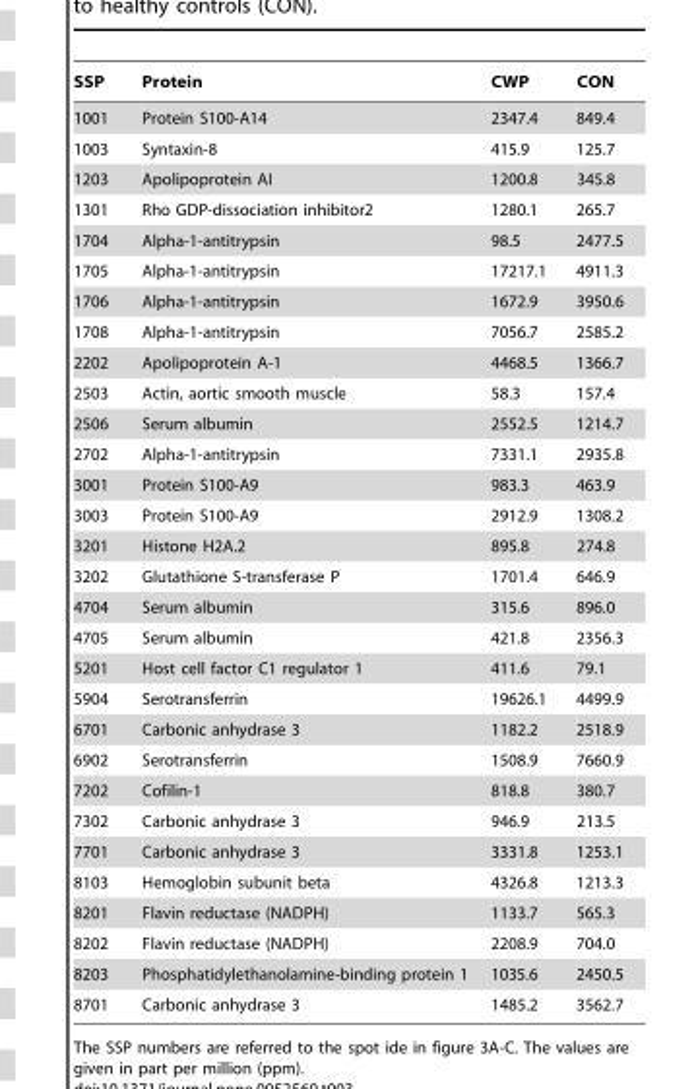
<table><thead><tr><td>SSP</td><td>Protein</td><td>CWP</td><td>CON</td></tr></thead><tbody><tr><td>1001</td><td>Protein S100-A14</td><td>2347.4</td><td>849.4</td></tr><tr><td>1003</td><td>Syntaxin-8</td><td>415.9</td><td>125.7</td></tr><tr><td>1203</td><td>Apolipoprotein AI</td><td>1200.8</td><td>345.8</td></tr><tr><td>1301</td><td>Rho GDP-dissociation inhibitor2</td><td>1280.1</td><td>265.7</td></tr><tr><td>1704</td><td>Alpha-1-antitrypsin</td><td>98.5</td><td>2477.5</td></tr><tr><td>1705</td><td>Alpha-1-antitrypsin</td><td>17217.1</td><td>4911.3</td></tr><tr><td>1706</td><td>Alpha-1-antitrypsin</td><td>1672.9</td><td>3950.6</td></tr><tr><td>1708</td><td>Alpha-1-antitrypsin</td><td>7056.7</td><td>2585.2</td></tr><tr><td>2202</td><td>Apolipoprotein A-1</td><td>4468.5</td><td>1366.7</td></tr><tr><td>2503</td><td>Actin, aortic smooth muscle</td><td>58.3</td><td>157.4</td></tr><tr><td>2506</td><td>Serum albumin</td><td>2552.5</td><td>1214.7</td></tr><tr><td>2702</td><td>Alpha-1-antitrypsin</td><td>7331.1</td><td>2935.8</td></tr><tr><td>3001</td><td>Protein S100-A9</td><td>983.3</td><td>463.9</td></tr><tr><td>3003</td><td>Protein S100-A9</td><td>2912.9</td><td>1308.2</td></tr><tr><td>3201</td><td>Histone H2A.2</td><td>895.8</td><td>274.8</td></tr><tr><td>3202</td><td>Glutathione S-transferase P</td><td>1701.4</td><td>646.9</td></tr><tr><td>4704</td><td>Serum albumin</td><td>315.6</td><td>896.0</td></tr><tr><td>4705</td><td>Serum albumin</td><td>421.8</td><td>2356.3</td></tr><tr><td>5201</td><td>Host cell factor C1 regulator 1</td><td>411.6</td><td>79.1</td></tr><tr><td>5904</td><td>Serotransferrin</td><td>19626.1</td><td>4499.9</td></tr><tr><td>6701</td><td>Carbonic anhydrase 3</td><td>1182.2</td><td>2518.9</td></tr><tr><td>6902</td><td>Serotransferrin</td><td>1508.9</td><td>7660.9</td></tr><tr><td>7202</td><td>Cofilin-1</td><td>818.8</td><td>380.7</td></tr><tr><td>7302</td><td>Carbonic anhydrase 3</td><td>946.9</td><td>213.5</td></tr><tr><td>7701</td><td>Carbonic anhydrase 3</td><td>3331.8</td><td>1253.1</td></tr><tr><td>8103</td><td>Hemoglobin subunit beta</td><td>4326.8</td><td>1213.3</td></tr><tr><td>8201</td><td>Flavin reductase (NADPH)</td><td>1133.7</td><td>565.3</td></tr><tr><td>8202</td><td>Flavin reductase (NADPH)</td><td>2208.9</td><td>704.0</td></tr><tr><td>8203</td><td>Phosphatidylethanolamine-binding protein 1</td><td>1035.6</td><td>2450.5</td></tr><tr><td>8701</td><td>Carbonic anhydrase 3</td><td>1485.2</td><td>3562.7</td></tr></tbody></table>